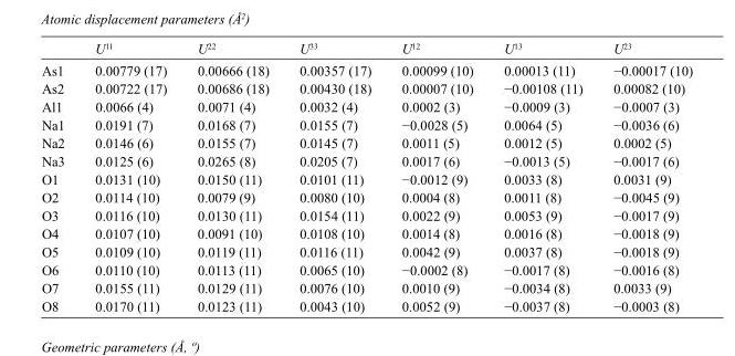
<table><thead><tr><td></td><td>U<sup>11</sup></td><td>U<sup>22</sup></td><td>U<sup>33</sup></td><td>U<sup>12</sup></td><td>U<sup>13</sup></td><td>U<sup>23</sup></td></tr></thead><tbody><tr><td>As1</td><td>0.00779 (17)</td><td>0.00666 (18)</td><td>0.00357 (17)</td><td>0.00099 (10)</td><td>0.00013 (11)</td><td>−0.00017 (10)</td></tr><tr><td>As2</td><td>0.00722 (17)</td><td>0.00686 (18)</td><td>0.00430 (18)</td><td>0.00007 (10)</td><td>−0.00108 (11)</td><td>0.00082 (10)</td></tr><tr><td>Al1</td><td>0.0066 (4)</td><td>0.0071 (4)</td><td>0.0032 (4)</td><td>0.0002 (3)</td><td>−0.0009 (3)</td><td>−0.0007 (3)</td></tr><tr><td>Na1</td><td>0.0191 (7)</td><td>0.0168 (7)</td><td>0.0155 (7)</td><td>−0.0028 (5)</td><td>0.0064 (5)</td><td>−0.0036 (6)</td></tr><tr><td>Na2</td><td>0.0146 (6)</td><td>0.0155 (7)</td><td>0.0145 (7)</td><td>0.0011 (5)</td><td>0.0012 (5)</td><td>0.0002 (5)</td></tr><tr><td>Na3</td><td>0.0125 (6)</td><td>0.0265 (8)</td><td>0.0205 (7)</td><td>0.0017 (6)</td><td>−0.0013 (5)</td><td>−0.0017 (6)</td></tr><tr><td>O1</td><td>0.0131 (10)</td><td>0.0150 (11)</td><td>0.0101 (11)</td><td>−0.0012 (9)</td><td>0.0033 (8)</td><td>0.0031 (9)</td></tr><tr><td>O2</td><td>0.0114 (10)</td><td>0.0079 (9)</td><td>0.0080 (10)</td><td>0.0004 (8)</td><td>0.0011 (8)</td><td>−0.0045 (9)</td></tr><tr><td>O3</td><td>0.0116 (10)</td><td>0.0130 (11)</td><td>0.0154 (11)</td><td>0.0022 (9)</td><td>0.0053 (9)</td><td>−0.0017 (9)</td></tr><tr><td>O4</td><td>0.0107 (10)</td><td>0.0091 (10)</td><td>0.0108 (10)</td><td>0.0014 (8)</td><td>0.0016 (8)</td><td>−0.0018 (9)</td></tr><tr><td>O5</td><td>0.0109 (10)</td><td>0.0119 (11)</td><td>0.0116 (11)</td><td>0.0042 (9)</td><td>0.0037 (8)</td><td>−0.0018 (9)</td></tr><tr><td>O6</td><td>0.0110 (10)</td><td>0.0113 (11)</td><td>0.0065 (10)</td><td>−0.0002 (8)</td><td>−0.0017 (8)</td><td>−0.0016 (8)</td></tr><tr><td>O7</td><td>0.0155 (11)</td><td>0.0129 (11)</td><td>0.0076 (10)</td><td>0.0010 (9)</td><td>−0.0034 (8)</td><td>0.0033 (9)</td></tr><tr><td>O8</td><td>0.0170 (11)</td><td>0.0123 (11)</td><td>0.0043 (10)</td><td>0.0052 (9)</td><td>−0.0037 (8)</td><td>−0.0003 (8)</td></tr></tbody></table>